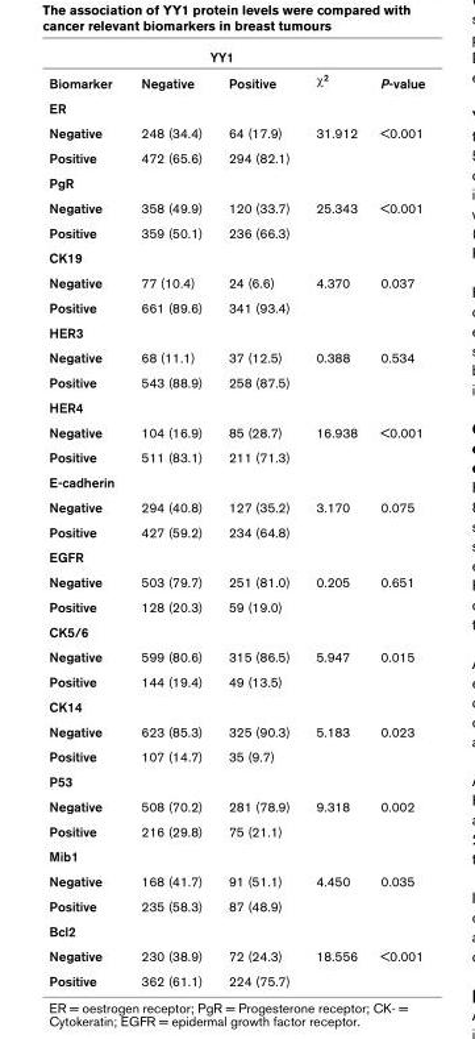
<table><thead><tr><td rowspan="2">Biomarker</td><td colspan="2">YY1</td><td rowspan="2">χ<sup>2</sup></td><td rowspan="2">P-value</td></tr><tr><td>Negative</td><td>Positive</td></tr></thead><tbody><tr><td colspan="5">ER</td></tr><tr><td>Negative</td><td>248 (34.4)</td><td>64 (17.9)</td><td>31.912</td><td>&lt;0.001</td></tr><tr><td>Positive</td><td>472 (65.6)</td><td>294 (82.1)</td><td></td><td></td></tr><tr><td colspan="5">PgR</td></tr><tr><td>Negative</td><td>358 (49.9)</td><td>120 (33.7)</td><td>25.343</td><td>&lt;0.001</td></tr><tr><td>Positive</td><td>359 (50.1)</td><td>236 (66.3)</td><td></td><td></td></tr><tr><td colspan="5">CK19</td></tr><tr><td>Negative</td><td>77 (10.4)</td><td>24 (6.6)</td><td>4.370</td><td>0.037</td></tr><tr><td>Positive</td><td>661 (89.6)</td><td>341 (93.4)</td><td></td><td></td></tr><tr><td colspan="5">HER3</td></tr><tr><td>Negative</td><td>68 (11.1)</td><td>37 (12.5)</td><td>0.388</td><td>0.534</td></tr><tr><td>Positive</td><td>543 (88.9)</td><td>258 (87.5)</td><td></td><td></td></tr><tr><td colspan="5">HER4</td></tr><tr><td>Negative</td><td>104 (16.9)</td><td>85 (28.7)</td><td>16.938</td><td>&lt;0.001</td></tr><tr><td>Positive</td><td>511 (83.1)</td><td>211 (71.3)</td><td></td><td></td></tr><tr><td colspan="5">E-cadherin</td></tr><tr><td>Negative</td><td>294 (40.8)</td><td>127 (35.2)</td><td>3.170</td><td>0.075</td></tr><tr><td>Positive</td><td>427 (59.2)</td><td>234 (64.8)</td><td></td><td></td></tr><tr><td colspan="5">EGFR</td></tr><tr><td>Negative</td><td>503 (79.7)</td><td>251 (81.0)</td><td>0.205</td><td>0.651</td></tr><tr><td>Positive</td><td>128 (20.3)</td><td>59 (19.0)</td><td></td><td></td></tr><tr><td colspan="5">CK5/6</td></tr><tr><td>Negative</td><td>599 (80.6)</td><td>315 (86.5)</td><td>5.947</td><td>0.015</td></tr><tr><td>Positive</td><td>144 (19.4)</td><td>49 (13.5)</td><td></td><td></td></tr><tr><td colspan="5">CK14</td></tr><tr><td>Negative</td><td>623 (85.3)</td><td>325 (90.3)</td><td>5.183</td><td>0.023</td></tr><tr><td>Positive</td><td>107 (14.7)</td><td>35 (9.7)</td><td></td><td></td></tr><tr><td colspan="5">P53</td></tr><tr><td>Negative</td><td>508 (70.2)</td><td>281 (78.9)</td><td>9.318</td><td>0.002</td></tr><tr><td>Positive</td><td>216 (29.8)</td><td>75 (21.1)</td><td></td><td></td></tr><tr><td colspan="5">Mib1</td></tr><tr><td>Negative</td><td>168 (41.7)</td><td>91 (51.1)</td><td>4.450</td><td>0.035</td></tr><tr><td>Positive</td><td>235 (58.3)</td><td>87 (48.9)</td><td></td><td></td></tr><tr><td colspan="5">Bcl2</td></tr><tr><td>Negative</td><td>230 (38.9)</td><td>72 (24.3)</td><td>18.556</td><td>&lt;0.001</td></tr><tr><td>Positive</td><td>362 (61.1)</td><td>224 (75.7)</td><td></td><td></td></tr></tbody></table>